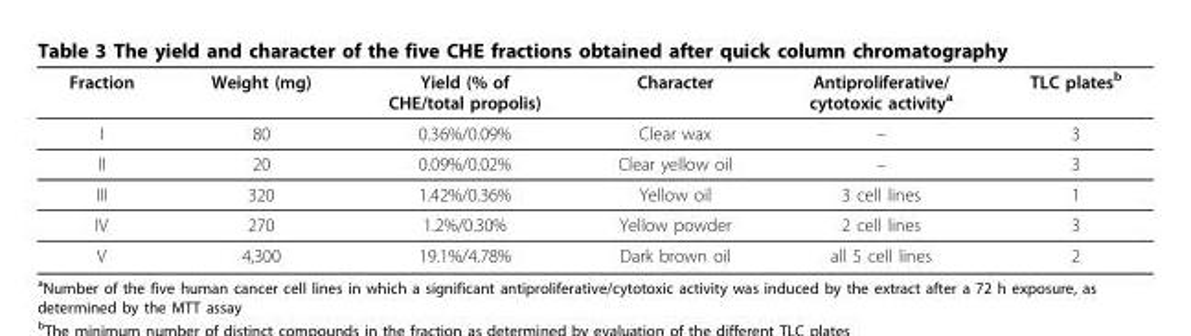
<table><thead><tr><td>Fraction</td><td>Weight (mg)</td><td>Yield (% of CHE/total propolis)</td><td>Character</td><td>Antiproliferative/ cytotoxic activity<sup>a</sup></td><td>TLC plates<sup>b</sup></td></tr></thead><tbody><tr><td>I</td><td>80</td><td>0.36%/0.09%</td><td>Clear wax</td><td>–</td><td>3</td></tr><tr><td>II</td><td>20</td><td>0.09%/0.02%</td><td>Clear yellow oil</td><td>–</td><td>3</td></tr><tr><td>III</td><td>320</td><td>1.42%/0.36%</td><td>Yellow oil</td><td>3 cell lines</td><td>1</td></tr><tr><td>IV</td><td>270</td><td>1.2%/0.30%</td><td>Yellow powder</td><td>2 cell lines</td><td>3</td></tr><tr><td>V</td><td>4,300</td><td>19.1%/4.78%</td><td>Dark brown oil</td><td>all 5 cell lines</td><td>2</td></tr></tbody></table>